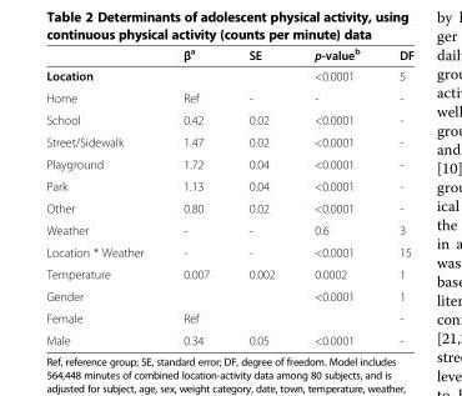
<table><thead><tr><td></td><td>β<sup>a</sup></td><td>SE</td><td>p-value<sup>b</sup></td><td>DF</td></tr></thead><tbody><tr><td>Location</td><td></td><td></td><td>&lt;0.0001</td><td>5</td></tr><tr><td>Home</td><td>Ref</td><td>-</td><td>-</td><td>-</td></tr><tr><td>School</td><td>0.42</td><td>0.02</td><td>&lt;0.0001</td><td>-</td></tr><tr><td>Street/Sidewalk</td><td>1.47</td><td>0.02</td><td>&lt;0.0001</td><td>-</td></tr><tr><td>Playground</td><td>1.72</td><td>0.04</td><td>&lt;0.0001</td><td>-</td></tr><tr><td>Park</td><td>1.13</td><td>0.04</td><td>&lt;0.0001</td><td>-</td></tr><tr><td>Other</td><td>0.80</td><td>0.02</td><td>&lt;0.0001</td><td>-</td></tr><tr><td>Weather</td><td>-</td><td>-</td><td>0.6</td><td>3</td></tr><tr><td>Location * Weather</td><td>-</td><td>-</td><td>&lt;0.0001</td><td>15</td></tr><tr><td>Temperature</td><td>0.007</td><td>0.002</td><td>0.0002</td><td>1</td></tr><tr><td>Gender</td><td></td><td></td><td>&lt;0.0001</td><td>1</td></tr><tr><td>Female</td><td>Ref</td><td></td><td></td><td>-</td></tr><tr><td>Male</td><td>0.34</td><td>0.05</td><td>&lt;0.0001</td><td>-</td></tr></tbody></table>